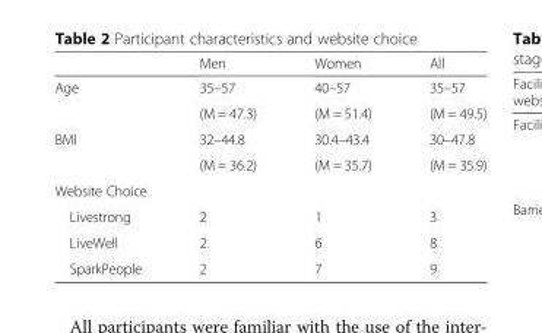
<table><thead><tr><td></td><td>Men</td><td>Women</td><td>All</td></tr></thead><tbody><tr><td rowspan="2">Age</td><td>35–57</td><td>40–57</td><td>35–57</td></tr><tr><td>(M = 47.3)</td><td>(M = 51.4)</td><td>(M = 49.5)</td></tr><tr><td rowspan="2">BMI</td><td>32–44.8</td><td>30.4–43.4</td><td>30–47.8</td></tr><tr><td>(M = 36.2)</td><td>(M = 35.7)</td><td>(M = 35.9)</td></tr><tr><td colspan="4">Website Choice</td></tr><tr><td>Livestrong</td><td>2</td><td>1</td><td>3</td></tr><tr><td>LiveWell</td><td>2</td><td>6</td><td>8</td></tr><tr><td>SparkPeople</td><td>2</td><td>7</td><td>9</td></tr></tbody></table>